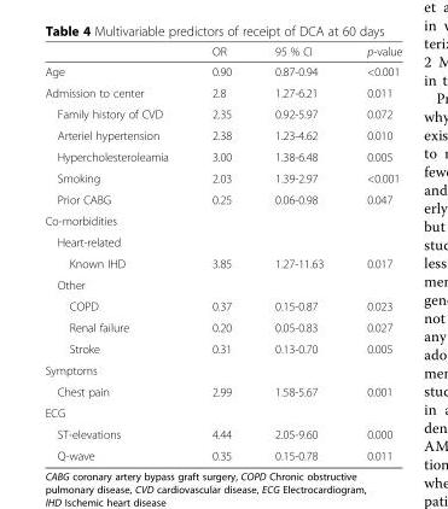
<table><thead><tr><td></td><td>OR</td><td>95 % CI</td><td>p-value</td></tr></thead><tbody><tr><td>Age</td><td>0.90</td><td>0.87-0.94</td><td>&lt;0.001</td></tr><tr><td>Admission to center</td><td>2.8</td><td>1.27-6.21</td><td>0.011</td></tr><tr><td>Family history of CVD</td><td>2.35</td><td>0.92-5.97</td><td>0.072</td></tr><tr><td>Arteriel hypertension</td><td>2.38</td><td>1.23-4.62</td><td>0.010</td></tr><tr><td>Hypercholesteroleamia</td><td>3.00</td><td>1.38-6.48</td><td>0.005</td></tr><tr><td>Smoking</td><td>2.03</td><td>1.39-2.97</td><td>&lt;0.001</td></tr><tr><td>Prior CABG</td><td>0.25</td><td>0.06-0.98</td><td>0.047</td></tr><tr><td colspan="4">Co-morbidities</td></tr><tr><td colspan="4">Heart-related</td></tr><tr><td>Known IHD</td><td>3.85</td><td>1.27-11.63</td><td>0.017</td></tr><tr><td colspan="4">Other</td></tr><tr><td>COPD</td><td>0.37</td><td>0.15-0.87</td><td>0.023</td></tr><tr><td>Renal failure</td><td>0.20</td><td>0.05-0.83</td><td>0.027</td></tr><tr><td>Stroke</td><td>0.31</td><td>0.13-0.70</td><td>0.005</td></tr><tr><td colspan="4">Symptoms</td></tr><tr><td>Chest pain</td><td>2.99</td><td>1.58-5.67</td><td>0.001</td></tr><tr><td colspan="4">ECG</td></tr><tr><td>ST-elevations</td><td>4.44</td><td>2.05-9.60</td><td>0.000</td></tr><tr><td>Q-wave</td><td>0.35</td><td>0.15-0.78</td><td>0.011</td></tr></tbody></table>